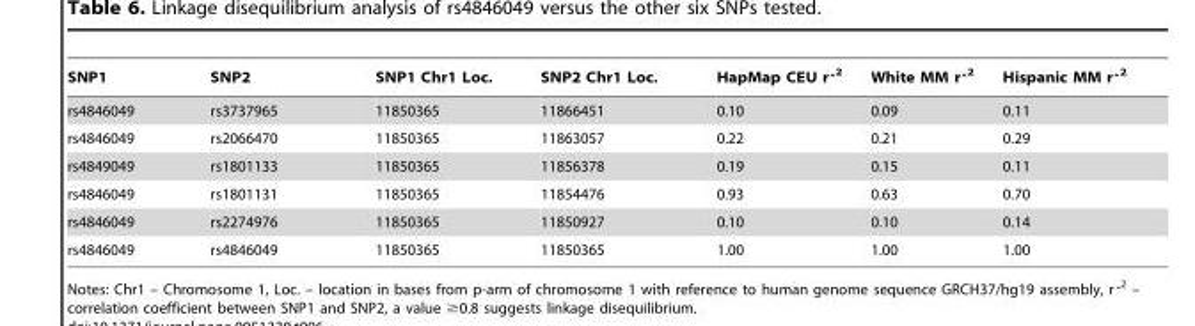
<table><thead><tr><td>SNP1</td><td>SNP2</td><td>SNP1 Chr1 Loc.</td><td>SNP2 Chr1 Loc.</td><td>HapMap CEU rˆ 2</td><td>White MM rˆ 2</td><td>Hispanic MM rˆ 2</td></tr></thead><tbody><tr><td>rs4846049</td><td>rs3737965</td><td>11850365</td><td>11866451</td><td>0.10</td><td>0.09</td><td>0.11</td></tr><tr><td>rs4846049</td><td>rs2066470</td><td>11850365</td><td>11863057</td><td>0.22</td><td>0.21</td><td>0.29</td></tr><tr><td>rs4849049</td><td>rs1801133</td><td>11850365</td><td>11856378</td><td>0.19</td><td>0.15</td><td>0.11</td></tr><tr><td>rs4846049</td><td>rs1801131</td><td>11850365</td><td>11854476</td><td>0.93</td><td>0.63</td><td>0.70</td></tr><tr><td>rs4846049</td><td>rs2274976</td><td>11850365</td><td>11850927</td><td>0.10</td><td>0.10</td><td>0.14</td></tr><tr><td>rs4846049</td><td>rs4846049</td><td>11850365</td><td>11850365</td><td>1.00</td><td>1.00</td><td>1.00</td></tr></tbody></table>